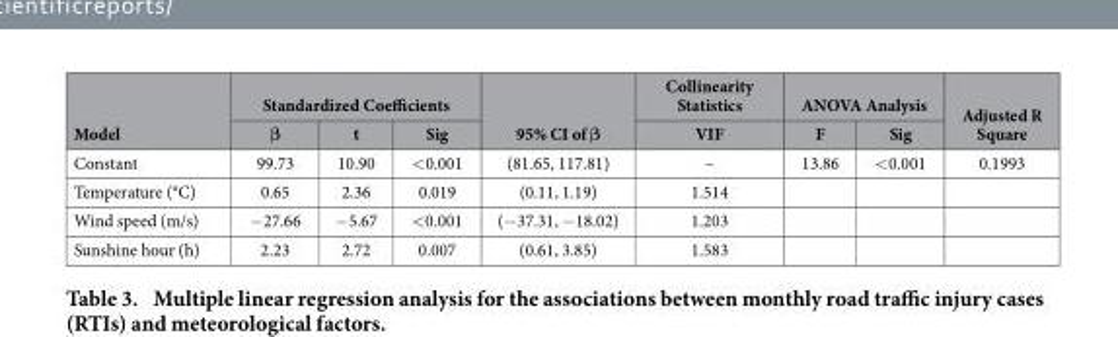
<table><thead><tr><td rowspan="2">Model</td><td colspan="3">Standardized Coefficients</td><td rowspan="2">95% CI of β</td><td rowspan="2">Collinearity Statistics VIF</td><td colspan="2">ANOVA Analysis</td><td rowspan="2">Adjusted R Square</td></tr><tr><td>β</td><td>t</td><td>Sig</td><td>F</td><td>Sig</td></tr></thead><tbody><tr><td>Constant</td><td>99.73</td><td>10.90</td><td>&lt; 0.001</td><td>(81.65, 117.81)</td><td>–</td><td>13.86</td><td>&lt; 0.001</td><td>0.1993</td></tr><tr><td>Temperature (°C)</td><td>0.65</td><td>2.36</td><td>0.019</td><td>(0.11, 1.19)</td><td>1.514</td><td></td><td></td><td></td></tr><tr><td>Wind speed (m/s)</td><td>− 27.66</td><td>− 5.67</td><td>&lt; 0.001</td><td>(− 37.31, − 18.02)</td><td>1.203</td><td></td><td></td><td></td></tr><tr><td>Sunshine hour (h)</td><td>2.23</td><td>2.72</td><td>0.007</td><td>(0.61, 3.85)</td><td>1.583</td><td></td><td></td><td></td></tr></tbody></table>